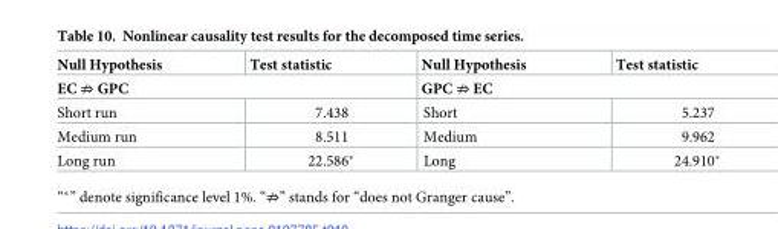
<table><thead><tr><td>Null Hypothesis</td><td>Test statistic</td><td>Null Hypothesis</td><td>Test statistic</td></tr><tr><td colspan="2">EC ⇏ GPC</td><td colspan="2">GPC ⇏ EC</td></tr></thead><tbody><tr><td>Short run</td><td>7.438</td><td>Short</td><td>5.237</td></tr><tr><td>Medium run</td><td>8.511</td><td>Medium</td><td>9.962</td></tr><tr><td>Long run</td><td>22.586*</td><td>Long</td><td>24.910*</td></tr></tbody></table>